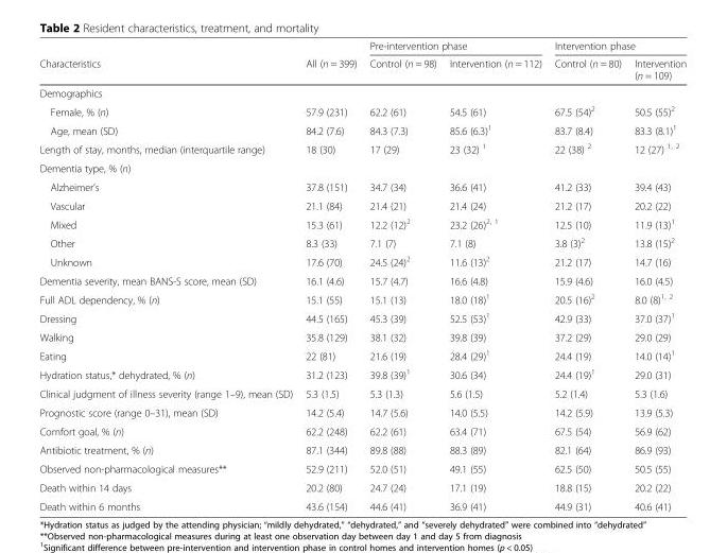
<table><thead><tr><td rowspan="2">Characteristics</td><td rowspan="2">All (n = 399)</td><td colspan="2">Pre-intervention phase</td><td colspan="2">Intervention phase</td></tr><tr><td>Control (n = 98)</td><td>Intervention (n = 112)</td><td>Control (n = 80)</td><td>Intervention (n = 109)</td></tr></thead><tbody><tr><td colspan="6">Demographics</td></tr><tr><td>Female, % (n)</td><td>57.9 (231)</td><td>62.2 (61)</td><td>54.5 (61)</td><td>67.5 (54)<sup>2</sup></td><td>50.5 (55)<sup>2</sup></td></tr><tr><td>Age, mean (SD)</td><td>84.2 (7.6)</td><td>84.3 (7.3)</td><td>85.6 (6.3)<sup>1</sup></td><td>83.7 (8.4)</td><td>83.3 (8.1)<sup>1</sup></td></tr><tr><td>Length of stay, months, median (interquartile range)</td><td>18 (30)</td><td>17 (29)</td><td>23 (32) <sup>1</sup></td><td>22 (38) <sup>2</sup></td><td>12 (27) <sup>1, 2</sup></td></tr><tr><td colspan="6">Dementia type, % (n)</td></tr><tr><td>Alzheimer’s</td><td>37.8 (151)</td><td>34.7 (34)</td><td>36.6 (41)</td><td>41.2 (33)</td><td>39.4 (43)</td></tr><tr><td>Vascular</td><td>21.1 (84)</td><td>21.4 (21)</td><td>21.4 (24)</td><td>21.2 (17)</td><td>20.2 (22)</td></tr><tr><td>Mixed</td><td>15.3 (61)</td><td>12.2 (12)<sup>2</sup></td><td>23.2 (26)<sup>2, 1</sup></td><td>12.5 (10)</td><td>11.9 (13)<sup>1</sup></td></tr><tr><td>Other</td><td>8.3 (33)</td><td>7.1 (7)</td><td>7.1 (8)</td><td>3.8 (3)<sup>2</sup></td><td>13.8 (15)<sup>2</sup></td></tr><tr><td>Unknown</td><td>17.6 (70)</td><td>24.5 (24)<sup>2</sup></td><td>11.6 (13)<sup>2</sup></td><td>21.2 (17)</td><td>14.7 (16)</td></tr><tr><td>Dementia severity, mean BANS-S score, mean (SD)</td><td>16.1 (4.6)</td><td>15.7 (4.7)</td><td>16.6 (4.8)</td><td>15.9 (4.6)</td><td>16.0 (4.5)</td></tr><tr><td>Full ADL dependency, % (n)</td><td>15.1 (55)</td><td>15.1 (13)</td><td>18.0 (18)<sup>1</sup></td><td>20.5 (16)<sup>2</sup></td><td>8.0 (8)<sup>1, 2</sup></td></tr><tr><td>Dressing</td><td>44.5 (165)</td><td>45.3 (39)</td><td>52.5 (53)<sup>1</sup></td><td>42.9 (33)</td><td>37.0 (37)<sup>1</sup></td></tr><tr><td>Walking</td><td>35.8 (129)</td><td>38.1 (32)</td><td>39.8 (39)</td><td>37.2 (29)</td><td>29.0 (29)</td></tr><tr><td>Eating</td><td>22 (81)</td><td>21.6 (19)</td><td>28.4 (29)<sup>1</sup></td><td>24.4 (19)</td><td>14.0 (14)<sup>1</sup></td></tr><tr><td>Hydration status,* dehydrated, % (n)</td><td>31.2 (123)</td><td>39.8 (39)<sup>1</sup></td><td>30.6 (34)</td><td>24.4 (19)<sup>1</sup></td><td>29.0 (31)</td></tr><tr><td>Clinical judgment of illness severity (range 1–9), mean (SD)</td><td>5.3 (1.5)</td><td>5.3 (1.3)</td><td>5.6 (1.5)</td><td>5.2 (1.4)</td><td>5.3 (1.6)</td></tr><tr><td>Prognostic score (range 0–31), mean (SD)</td><td>14.2 (5.4)</td><td>14.7 (5.6)</td><td>14.0 (5.5)</td><td>14.2 (5.9)</td><td>13.9 (5.3)</td></tr><tr><td>Comfort goal, % (n)</td><td>62.2 (248)</td><td>62.2 (61)</td><td>63.4 (71)</td><td>67.5 (54)</td><td>56.9 (62)</td></tr><tr><td>Antibiotic treatment, % (n)</td><td>87.1 (344)</td><td>89.8 (88)</td><td>88.3 (89)</td><td>82.1 (64)</td><td>86.9 (93)</td></tr><tr><td>Observed non-pharmacological measures**</td><td>52.9 (211)</td><td>52.0 (51)</td><td>49.1 (55)</td><td>62.5 (50)</td><td>50.5 (55)</td></tr><tr><td>Death within 14 days</td><td>20.2 (80)</td><td>24.7 (24)</td><td>17.1 (19)</td><td>18.8 (15)</td><td>20.2 (22)</td></tr><tr><td>Death within 6 months</td><td>43.6 (154)</td><td>44.6 (41)</td><td>36.9 (41)</td><td>44.9 (31)</td><td>40.6 (41)</td></tr></tbody></table>